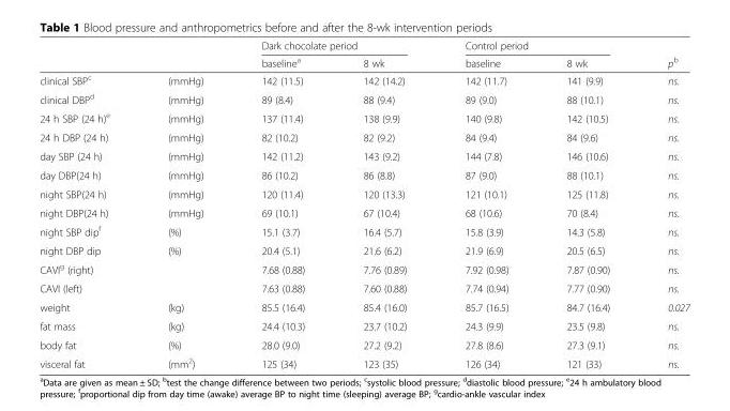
<table><thead><tr><td rowspan="2"></td><td rowspan="2"></td><td colspan="2">Dark chocolate period</td><td colspan="2">Control period</td><td rowspan="2">p<sup>b</sup></td></tr><tr><td>baseline<sup>a</sup></td><td>8 wk</td><td>baseline</td><td>8 wk</td></tr></thead><tbody><tr><td>clinical SBP<sup>c</sup></td><td>(mmHg)</td><td>142 (11.5)</td><td>142 (14.2)</td><td>142 (11.7)</td><td>141 (9.9)</td><td>ns.</td></tr><tr><td>clinical DBP<sup>d</sup></td><td>(mmHg)</td><td>89 (8.4)</td><td>88 (9.4)</td><td>89 (9.0)</td><td>88 (10.1)</td><td>ns.</td></tr><tr><td>24 h SBP (24 h)<sup>e</sup></td><td>(mmHg)</td><td>137 (11.4)</td><td>138 (9.9)</td><td>140 (9.8)</td><td>142 (10.5)</td><td>ns.</td></tr><tr><td>24 h DBP (24 h)</td><td>(mmHg)</td><td>82 (10.2)</td><td>82 (9.2)</td><td>84 (9.4)</td><td>84 (9.6)</td><td>ns.</td></tr><tr><td>day SBP (24 h)</td><td>(mmHg)</td><td>142 (11.2)</td><td>143 (9.2)</td><td>144 (7.8)</td><td>146 (10.6)</td><td>ns.</td></tr><tr><td>day DBP(24 h)</td><td>(mmHg)</td><td>86 (10.2)</td><td>86 (8.8)</td><td>87 (9.0)</td><td>88 (10.1)</td><td>ns.</td></tr><tr><td>night SBP(24 h)</td><td>(mmHg)</td><td>120 (11.4)</td><td>120 (13.3)</td><td>121 (10.1)</td><td>125 (11.8)</td><td>ns.</td></tr><tr><td>night DBP(24 h)</td><td>(mmHg)</td><td>69 (10.1)</td><td>67 (10.4)</td><td>68 (10.6)</td><td>70 (8.4)</td><td>ns.</td></tr><tr><td>night SBP dip<sup>f</sup></td><td>(%)</td><td>15.1 (3.7)</td><td>16.4 (5.7)</td><td>15.8 (3.9)</td><td>14.3 (5.8)</td><td>ns.</td></tr><tr><td>night DBP dip</td><td>(%)</td><td>20.4 (5.1)</td><td>21.6 (6.2)</td><td>21.9 (6.9)</td><td>20.5 (6.5)</td><td>ns.</td></tr><tr><td>CAVI<sup>g</sup> (right)</td><td></td><td>7.68 (0.88)</td><td>7.76 (0.89)</td><td>7.92 (0.98)</td><td>7.87 (0.90)</td><td>ns.</td></tr><tr><td>CAVI (left)</td><td></td><td>7.63 (0.88)</td><td>7.60 (0.88)</td><td>7.74 (0.94)</td><td>7.77 (0.90)</td><td>ns.</td></tr><tr><td>weight</td><td>(kg)</td><td>85.5 (16.4)</td><td>85.4 (16.0)</td><td>85.7 (16.5)</td><td>84.7 (16.4)</td><td>0.027</td></tr><tr><td>fat mass</td><td>(kg)</td><td>24.4 (10.3)</td><td>23.7 (10.2)</td><td>24.3 (9.9)</td><td>23.5 (9.8)</td><td>ns.</td></tr><tr><td>body fat</td><td>(%)</td><td>28.0 (9.0)</td><td>27.2 (9.2)</td><td>27.8 (8.6)</td><td>27.3 (9.1)</td><td>ns.</td></tr><tr><td>visceral fat</td><td>(mm<sup>2</sup>)</td><td>125 (34)</td><td>123 (35)</td><td>126 (34)</td><td>121 (33)</td><td>ns.</td></tr></tbody></table>